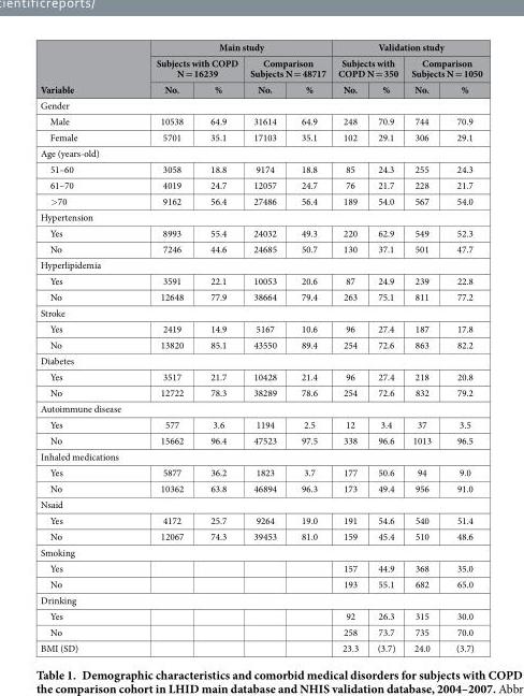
<table><thead><tr><td rowspan="3">Variable</td><td colspan="4">Main study</td><td colspan="4">Validation study</td></tr><tr><td colspan="2">Subjects with COPD N = 16239</td><td colspan="2">Comparison Subjects N = 48717</td><td colspan="2">Subjects with COPD N = 350</td><td colspan="2">Comparison Subjects N = 1050</td></tr><tr><td>No.</td><td>%</td><td>No.</td><td>%</td><td>No.</td><td>%</td><td>No.</td><td>%</td></tr></thead><tbody><tr><td colspan="9">Gender</td></tr><tr><td>Male</td><td>10538</td><td>64.9</td><td>31614</td><td>64.9</td><td>248</td><td>70.9</td><td>744</td><td>70.9</td></tr><tr><td>Female</td><td>5701</td><td>35.1</td><td>17103</td><td>35.1</td><td>102</td><td>29.1</td><td>306</td><td>29.1</td></tr><tr><td colspan="9">Age (years-old)</td></tr><tr><td>51–60</td><td>3058</td><td>18.8</td><td>9174</td><td>18.8</td><td>85</td><td>24.3</td><td>255</td><td>24.3</td></tr><tr><td>61–70</td><td>4019</td><td>24.7</td><td>12057</td><td>24.7</td><td>76</td><td>21.7</td><td>228</td><td>21.7</td></tr><tr><td>&gt;70</td><td>9162</td><td>56.4</td><td>27486</td><td>56.4</td><td>189</td><td>54.0</td><td>567</td><td>54.0</td></tr><tr><td colspan="9">Hypertension</td></tr><tr><td>Yes</td><td>8993</td><td>55.4</td><td>24032</td><td>49.3</td><td>220</td><td>62.9</td><td>549</td><td>52.3</td></tr><tr><td>No</td><td>7246</td><td>44.6</td><td>24685</td><td>50.7</td><td>130</td><td>37.1</td><td>501</td><td>47.7</td></tr><tr><td colspan="9">Hyperlipidemia</td></tr><tr><td>Yes</td><td>3591</td><td>22.1</td><td>10053</td><td>20.6</td><td>87</td><td>24.9</td><td>239</td><td>22.8</td></tr><tr><td>No</td><td>12648</td><td>77.9</td><td>38664</td><td>79.4</td><td>263</td><td>75.1</td><td>811</td><td>77.2</td></tr><tr><td colspan="9">Stroke</td></tr><tr><td>Yes</td><td>2419</td><td>14.9</td><td>5167</td><td>10.6</td><td>96</td><td>27.4</td><td>187</td><td>17.8</td></tr><tr><td>No</td><td>13820</td><td>85.1</td><td>43550</td><td>89.4</td><td>254</td><td>72.6</td><td>863</td><td>82.2</td></tr><tr><td colspan="9">Diabetes</td></tr><tr><td>Yes</td><td>3517</td><td>21.7</td><td>10428</td><td>21.4</td><td>96</td><td>27.4</td><td>218</td><td>20.8</td></tr><tr><td>No</td><td>12722</td><td>78.3</td><td>38289</td><td>78.6</td><td>254</td><td>72.6</td><td>832</td><td>79.2</td></tr><tr><td colspan="9">Autoimmune disease</td></tr><tr><td>Yes</td><td>577</td><td>3.6</td><td>1194</td><td>2.5</td><td>12</td><td>3.4</td><td>37</td><td>3.5</td></tr><tr><td>No</td><td>15662</td><td>96.4</td><td>47523</td><td>97.5</td><td>338</td><td>96.6</td><td>1013</td><td>96.5</td></tr><tr><td colspan="9">Inhaled medications</td></tr><tr><td>Yes</td><td>5877</td><td>36.2</td><td>1823</td><td>3.7</td><td>177</td><td>50.6</td><td>94</td><td>9.0</td></tr><tr><td>No</td><td>10362</td><td>63.8</td><td>46894</td><td>96.3</td><td>173</td><td>49.4</td><td>956</td><td>91.0</td></tr><tr><td colspan="9">Nsaid</td></tr><tr><td>Yes</td><td>4172</td><td>25.7</td><td>9264</td><td>19.0</td><td>191</td><td>54.6</td><td>540</td><td>51.4</td></tr><tr><td>No</td><td>12067</td><td>74.3</td><td>39453</td><td>81.0</td><td>159</td><td>45.4</td><td>510</td><td>48.6</td></tr><tr><td colspan="9">Smoking</td></tr><tr><td>Yes</td><td></td><td></td><td></td><td></td><td>157</td><td>44.9</td><td>368</td><td>35.0</td></tr><tr><td>No</td><td></td><td></td><td></td><td></td><td>193</td><td>55.1</td><td>682</td><td>65.0</td></tr><tr><td colspan="9">Drinking</td></tr><tr><td>Yes</td><td></td><td></td><td></td><td></td><td>92</td><td>26.3</td><td>315</td><td>30.0</td></tr><tr><td>No</td><td></td><td></td><td></td><td></td><td>258</td><td>73.7</td><td>735</td><td>70.0</td></tr><tr><td>BMI (SD)</td><td></td><td></td><td></td><td></td><td>23.3</td><td>(3.7)</td><td>24.0</td><td>(3.7)</td></tr></tbody></table>